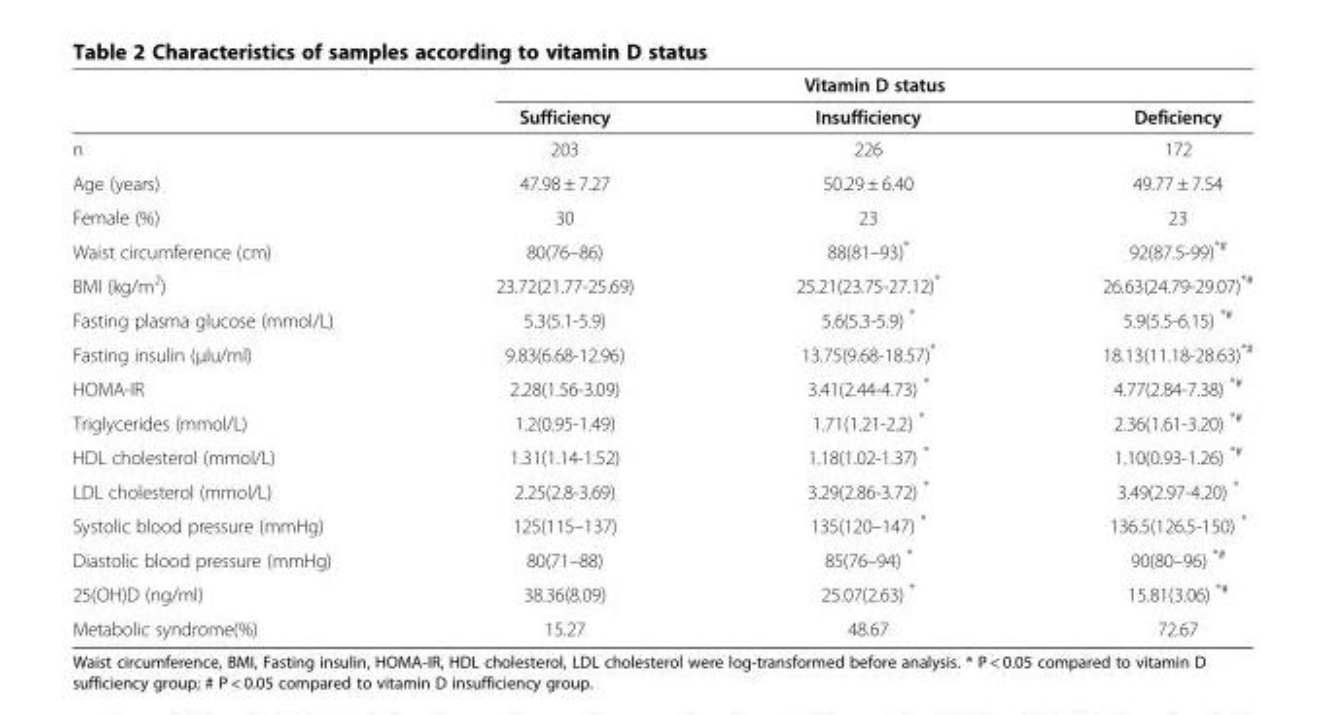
<table><thead><tr><td rowspan="2"></td><td colspan="3">Vitamin D status</td></tr><tr><td>Sufficiency</td><td>Insufficiency</td><td>Deficiency</td></tr></thead><tbody><tr><td>n</td><td>203</td><td>226</td><td>172</td></tr><tr><td>Age (years)</td><td>47.98 ± 7.27</td><td>50.29 ± 6.40</td><td>49.77 ± 7.54</td></tr><tr><td>Female (%)</td><td>30</td><td>23</td><td>23</td></tr><tr><td>Waist circumference (cm)</td><td>80(76–86)</td><td>88(81–93)*</td><td>92(87.5-99)<sup>*#</sup></td></tr><tr><td>BMI (kg/m<sup>2</sup>)</td><td>23.72(21.77-25.69)</td><td>25.21(23.75-27.12)*</td><td>26.63(24.79-29.07)<sup>*#</sup></td></tr><tr><td>Fasting plasma glucose (mmol/L)</td><td>5.3(5.1-5.9)</td><td>5.6(5.3-5.9) *</td><td>5.9(5.5-6.15) <sup>*#</sup></td></tr><tr><td>Fasting insulin (μIu/ml)</td><td>9.83(6.68-12.96)</td><td>13.75(9.68-18.57)*</td><td>18.13(11.18-28.63)<sup>*#</sup></td></tr><tr><td>HOMA-IR</td><td>2.28(1.56-3.09)</td><td>3.41(2.44-4.73) *</td><td>4.77(2.84-7.38) <sup>*#</sup></td></tr><tr><td>Triglycerides (mmol/L)</td><td>1.2(0.95-1.49)</td><td>1.71(1.21-2.2) *</td><td>2.36(1.61-3.20) <sup>*#</sup></td></tr><tr><td>HDL cholesterol (mmol/L)</td><td>1.31(1.14-1.52)</td><td>1.18(1.02-1.37) *</td><td>1.10(0.93-1.26) <sup>*#</sup></td></tr><tr><td>LDL cholesterol (mmol/L)</td><td>2.25(2.8-3.69)</td><td>3.29(2.86-3.72) *</td><td>3.49(2.97-4.20) *</td></tr><tr><td>Systolic blood pressure (mmHg)</td><td>125(115–137)</td><td>135(120–147) *</td><td>136.5(126.5-150) *</td></tr><tr><td>Diastolic blood pressure (mmHg)</td><td>80(71–88)</td><td>85(76–94) *</td><td>90(80–96) <sup>*#</sup></td></tr><tr><td>25(OH)D (ng/ml)</td><td>38.36(8.09)</td><td>25.07(2.63) *</td><td>15.81(3.06) <sup>*#</sup></td></tr><tr><td>Metabolic syndrome(%)</td><td>15.27</td><td>48.67</td><td>72.67</td></tr></tbody></table>